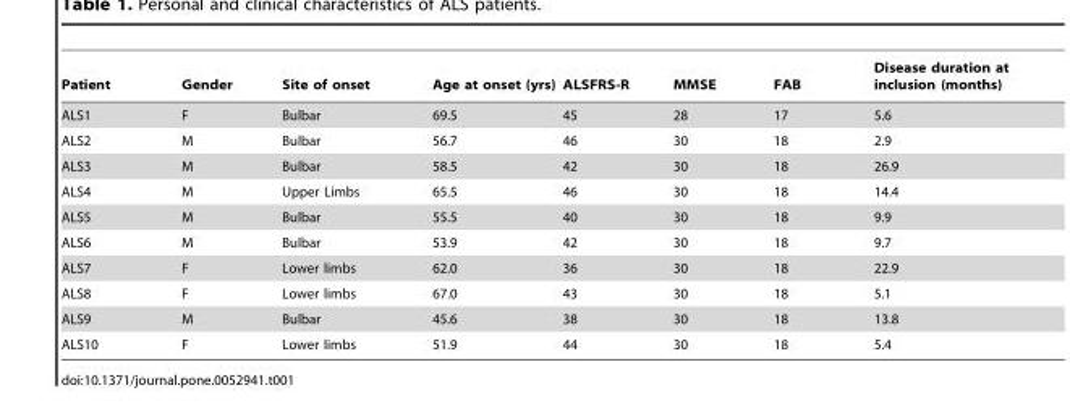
<table><thead><tr><td>Patient</td><td>Gender</td><td>Site of onset</td><td>Age at onset (yrs)</td><td>ALSFRS-R</td><td>MMSE</td><td>FAB</td><td>Disease duration at inclusion (months)</td></tr></thead><tbody><tr><td>ALS1</td><td>F</td><td>Bulbar</td><td>69.5</td><td>45</td><td>28</td><td>17</td><td>5.6</td></tr><tr><td>ALS2</td><td>M</td><td>Bulbar</td><td>56.7</td><td>46</td><td>30</td><td>18</td><td>2.9</td></tr><tr><td>ALS3</td><td>M</td><td>Bulbar</td><td>58.5</td><td>42</td><td>30</td><td>18</td><td>26.9</td></tr><tr><td>ALS4</td><td>M</td><td>Upper Limbs</td><td>65.5</td><td>46</td><td>30</td><td>18</td><td>14.4</td></tr><tr><td>ALS5</td><td>M</td><td>Bulbar</td><td>55.5</td><td>40</td><td>30</td><td>18</td><td>9.9</td></tr><tr><td>ALS6</td><td>M</td><td>Bulbar</td><td>53.9</td><td>42</td><td>30</td><td>18</td><td>9.7</td></tr><tr><td>ALS7</td><td>F</td><td>Lower limbs</td><td>62.0</td><td>36</td><td>30</td><td>18</td><td>22.9</td></tr><tr><td>ALS8</td><td>F</td><td>Lower limbs</td><td>67.0</td><td>43</td><td>30</td><td>18</td><td>5.1</td></tr><tr><td>ALS9</td><td>M</td><td>Bulbar</td><td>45.6</td><td>38</td><td>30</td><td>18</td><td>13.8</td></tr><tr><td>ALS10</td><td>F</td><td>Lower limbs</td><td>51.9</td><td>44</td><td>30</td><td>18</td><td>5.4</td></tr></tbody></table>